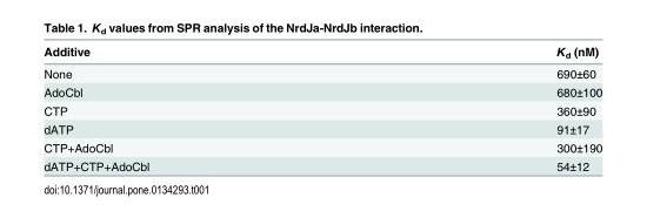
<table><thead><tr><td>Additive</td><td>K<sub>d</sub> (nM)</td></tr></thead><tbody><tr><td>None</td><td>690±60</td></tr><tr><td>AdoCbl</td><td>680±100</td></tr><tr><td>CTP</td><td>360±90</td></tr><tr><td>dATP</td><td>91±17</td></tr><tr><td>CTP+AdoCbl</td><td>300±190</td></tr><tr><td>dATP+CTP+AdoCbl</td><td>54±12</td></tr></tbody></table>